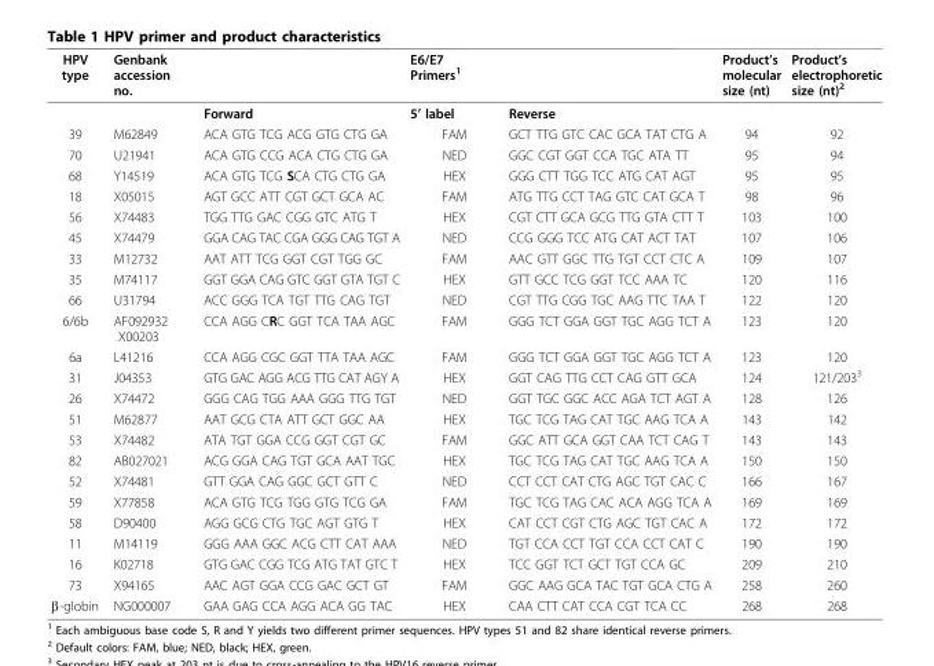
<table><thead><tr><td>HPV type</td><td>Genbank accession no.</td><td></td><td>E6/E7 Primers<sup>1</sup></td><td></td><td>Product’s molecular size (nt)</td><td>Product’s electrophoretic size (nt)<sup>2</sup></td></tr></thead><tbody><tr><td></td><td></td><td>Forward</td><td>5’ label</td><td>Reverse</td><td></td><td></td></tr><tr><td>39</td><td>M62849</td><td>ACA GTG TCG ACG GTG CTG GA</td><td>FAM</td><td>GCT TTG GTC CAC GCA TAT CTG A</td><td>94</td><td>92</td></tr><tr><td>70</td><td>U21941</td><td>ACA GTG CCG ACA CTG CTG GA</td><td>NED</td><td>GGC CGT GGT CCA TGC ATA TT</td><td>95</td><td>94</td></tr><tr><td>68</td><td>Y14519</td><td>ACA GTG TCG SCA CTG CTG GA</td><td>HEX</td><td>GGG CTT TGG TCC ATG CAT AGT</td><td>95</td><td>95</td></tr><tr><td>18</td><td>X05015</td><td>AGT GCC ATT CGT GCT GCA AC</td><td>FAM</td><td>ATG TTG CCT TAG GTC CAT GCA T</td><td>98</td><td>96</td></tr><tr><td>56</td><td>X74483</td><td>TGG TTG GAC CGG GTC ATG T</td><td>HEX</td><td>CGT CTT GCA GCG TTG GTA CTT T</td><td>103</td><td>100</td></tr><tr><td>45</td><td>X74479</td><td>GGA CAG TAC CGA GGG CAG TGT A</td><td>NED</td><td>CCG GGG TCC ATG CAT ACT TAT</td><td>107</td><td>106</td></tr><tr><td>33</td><td>M12732</td><td>AAT ATT TCG GGT CGT TGG GC</td><td>FAM</td><td>AAC GTT GGC TTG TGT CCT CTC A</td><td>109</td><td>107</td></tr><tr><td>35</td><td>M74117</td><td>GGT GGA CAG GTC GGT GTA TGT C</td><td>HEX</td><td>GTT GCC TCG GGT TCC AAA TC</td><td>120</td><td>116</td></tr><tr><td>66</td><td>U31794</td><td>ACC GGG TCA TGT TTG CAG TGT</td><td>NED</td><td>CGT TTG CGG TGC AAG TTC TAA T</td><td>122</td><td>120</td></tr><tr><td>6/6b</td><td>AF092932 X00203</td><td>CCA AGG CRC GGT TCA TAA AGC</td><td>FAM</td><td>GGG TCT GGA GGT TGC AGG TCT A</td><td>123</td><td>120</td></tr><tr><td>6a</td><td>L41216</td><td>CCA AGG CGC GGT TTA TAA AGC</td><td>FAM</td><td>GGG TCT GGA GGT TGC AGG TCT A</td><td>123</td><td>120</td></tr><tr><td>31</td><td>J04353</td><td>GTG GAC AGG ACG TTG CAT AGY A</td><td>HEX</td><td>GGT CAG TTG CCT CAG GTT GCA</td><td>124</td><td>121/203<sup>3</sup></td></tr><tr><td>26</td><td>X74472</td><td>GGG CAG TGG AAA GGG TTG TGT</td><td>NED</td><td>GGT TGC GGC ACC AGA TCT AGT A</td><td>128</td><td>126</td></tr><tr><td>51</td><td>M62877</td><td>AAT GCG CTA ATT GCT GGC AA</td><td>HEX</td><td>TGC TCG TAG CAT TGC AAG TCA A</td><td>143</td><td>142</td></tr><tr><td>53</td><td>X74482</td><td>ATA TGT GGA CCG GGT CGT GC</td><td>FAM</td><td>GGC ATT GCA GGT CAA TCT CAG T</td><td>143</td><td>143</td></tr><tr><td>82</td><td>AB027021</td><td>ACG GGA CAG TGT GCA AAT TGC</td><td>HEX</td><td>TGC TCG TAG CAT TGC AAG TCA A</td><td>150</td><td>150</td></tr><tr><td>52</td><td>X74481</td><td>GTT GGA CAG GGC GCT GTT C</td><td>NED</td><td>CCT CCT CAT CTG AGC TGT CAC C</td><td>166</td><td>167</td></tr><tr><td>59</td><td>X77858</td><td>ACA GTG TCG TGG GTG TCG GA</td><td>FAM</td><td>TGC TCG TAG CAC ACA AGG TCA A</td><td>169</td><td>169</td></tr><tr><td>58</td><td>D90400</td><td>AGG GCG CTG TGC AGT GTG T</td><td>HEX</td><td>CAT CCT CGT CTG AGC TGT CAC A</td><td>172</td><td>172</td></tr><tr><td>11</td><td>M14119</td><td>GGG AAA GGC ACG CTT CAT AAA</td><td>NED</td><td>TGT CCA CCT TGT CCA CCT CAT C</td><td>190</td><td>190</td></tr><tr><td>16</td><td>K02718</td><td>GTG GAC CGG TCG ATG TAT GTC T</td><td>HEX</td><td>TCC GGT TCT GCT TGT CCA GC</td><td>209</td><td>210</td></tr><tr><td>73</td><td>X94165</td><td>AAC AGT GGA CCG GAC GCT GT</td><td>FAM</td><td>GGC AAG GCA TAC TGT GCA CTG A</td><td>258</td><td>260</td></tr><tr><td>β-globin</td><td>NG000007</td><td>GAA GAG CCA AGG ACA GG TAC</td><td>HEX</td><td>CAA CTT CAT CCA CGT TCA CC</td><td>268</td><td>268</td></tr></tbody></table>